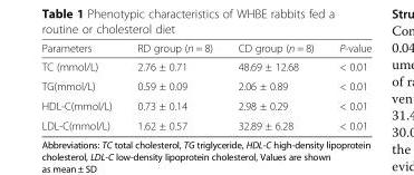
<table><thead><tr><td>Parameters</td><td>RD group (n = 8)</td><td>CD group (n = 8)</td><td>P-value</td></tr></thead><tbody><tr><td>TC (mmol/L)</td><td>2.76 ± 0.71</td><td>48.69 ± 12.68</td><td>&lt; 0.01</td></tr><tr><td>TG(mmol/L)</td><td>0.59 ± 0.09</td><td>2.06 ± 0.89</td><td>&lt; 0.01</td></tr><tr><td>HDL-C(mmol/L)</td><td>0.73 ± 0.14</td><td>2.98 ± 0.29</td><td>&lt; 0.01</td></tr><tr><td>LDL-C(mmol/L)</td><td>1.62 ± 0.57</td><td>32.89 ± 6.28</td><td>&lt; 0.01</td></tr></tbody></table>